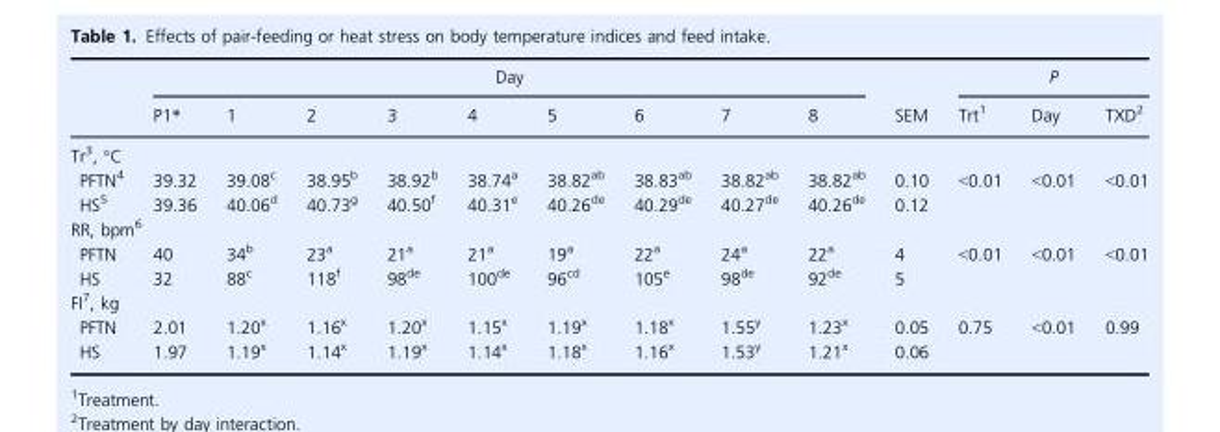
<table><thead><tr><td rowspan="2"></td><td colspan="9">Day</td><td rowspan="2">SEM</td><td colspan="3">P</td></tr><tr><td>P1*</td><td>1</td><td>2</td><td>3</td><td>4</td><td>5</td><td>6</td><td>7</td><td>8</td><td>Trt<sup>1</sup></td><td>Day</td><td>TXD<sup>2</sup></td></tr></thead><tbody><tr><td colspan="14">Tr<sup>3</sup>, °C</td></tr><tr><td>PFTN<sup>4</sup></td><td>39.32</td><td>39.08<sup>c</sup></td><td>38.95<sup>b</sup></td><td>38.92<sup>b</sup></td><td>38.74<sup>a</sup></td><td>38.82<sup>ab</sup></td><td>38.83<sup>ab</sup></td><td>38.82<sup>ab</sup></td><td>38.82<sup>ab</sup></td><td>0.10</td><td>&lt;0.01</td><td>&lt;0.01</td><td>&lt;0.01</td></tr><tr><td>HS<sup>5</sup></td><td>39.36</td><td>40.06<sup>d</sup></td><td>40.73<sup>g</sup></td><td>40.50<sup>f</sup></td><td>40.31<sup>e</sup></td><td>40.26<sup>de</sup></td><td>40.29<sup>de</sup></td><td>40.27<sup>de</sup></td><td>40.26<sup>de</sup></td><td>0.12</td><td></td><td></td><td></td></tr><tr><td colspan="14">RR, bpm<sup>6</sup></td></tr><tr><td>PFTN</td><td>40</td><td>34<sup>b</sup></td><td>23<sup>a</sup></td><td>21<sup>a</sup></td><td>21<sup>a</sup></td><td>19<sup>a</sup></td><td>22<sup>a</sup></td><td>24<sup>a</sup></td><td>22<sup>a</sup></td><td>4</td><td>&lt;0.01</td><td>&lt;0.01</td><td>&lt;0.01</td></tr><tr><td>HS</td><td>32</td><td>88<sup>c</sup></td><td>118<sup>f</sup></td><td>98<sup>de</sup></td><td>100<sup>de</sup></td><td>96<sup>cd</sup></td><td>105<sup>e</sup></td><td>98<sup>de</sup></td><td>92<sup>de</sup></td><td>5</td><td></td><td></td><td></td></tr><tr><td colspan="14">FI<sup>7</sup>, kg</td></tr><tr><td>PFTN</td><td>2.01</td><td>1.20<sup>x</sup></td><td>1.16<sup>x</sup></td><td>1.20<sup>x</sup></td><td>1.15<sup>x</sup></td><td>1.19<sup>x</sup></td><td>1.18<sup>x</sup></td><td>1.55<sup>y</sup></td><td>1.23<sup>x</sup></td><td>0.05</td><td>0.75</td><td>&lt;0.01</td><td>0.99</td></tr><tr><td>HS</td><td>1.97</td><td>1.19<sup>x</sup></td><td>1.14<sup>x</sup></td><td>1.19<sup>x</sup></td><td>1.14<sup>x</sup></td><td>1.18<sup>x</sup></td><td>1.16<sup>x</sup></td><td>1.53<sup>y</sup></td><td>1.21<sup>x</sup></td><td>0.06</td><td></td><td></td><td></td></tr></tbody></table>